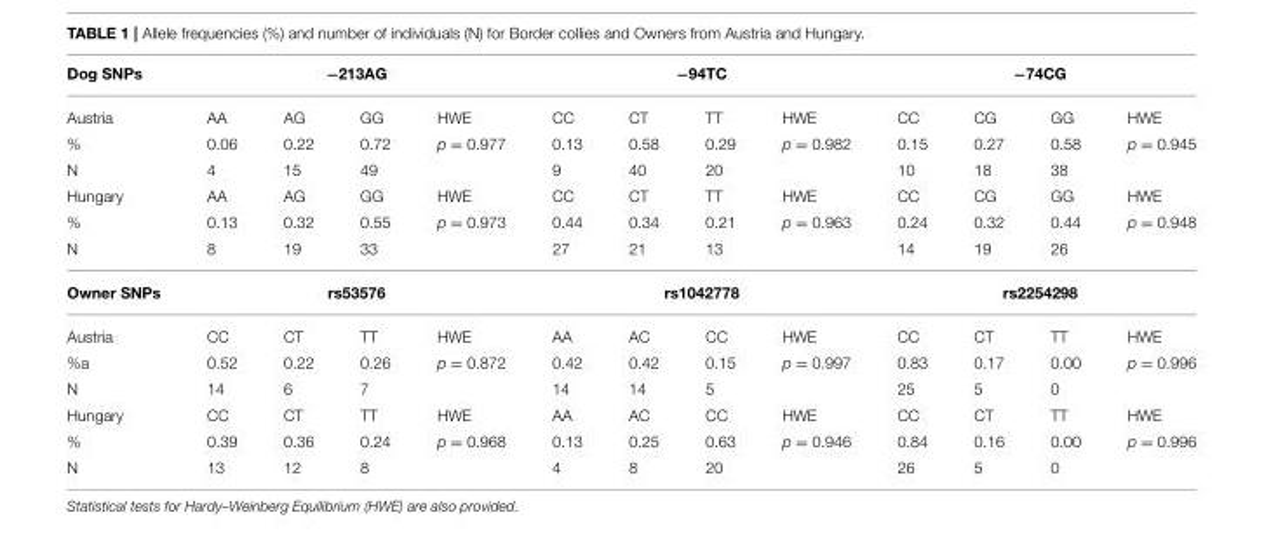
<table><thead><tr><td rowspan="2">Dog SNPs Austria</td><td colspan="4">−213AG</td><td colspan="4">−94TC</td><td colspan="4">−74CG</td></tr><tr><td>AA</td><td>AG</td><td>GG</td><td>HWE</td><td>CC</td><td>CT</td><td>TT</td><td>HWE</td><td>CC</td><td>CG</td><td>GG</td><td>HWE</td></tr></thead><tbody><tr><td>%</td><td>0.06</td><td>0.22</td><td>0.72</td><td>p = 0.977</td><td>0.13</td><td>0.58</td><td>0.29</td><td>p = 0.982</td><td>0.15</td><td>0.27</td><td>0.58</td><td>p = 0.945</td></tr><tr><td>N</td><td>4</td><td>15</td><td>49</td><td></td><td>9</td><td>40</td><td>20</td><td></td><td>10</td><td>18</td><td>38</td><td></td></tr><tr><td>Hungary</td><td>AA</td><td>AG</td><td>GG</td><td>HWE</td><td>CC</td><td>CT</td><td>TT</td><td>HWE</td><td>CC</td><td>CG</td><td>GG</td><td>HWE</td></tr><tr><td>%</td><td>0.13</td><td>0.32</td><td>0.55</td><td>p = 0.973</td><td>0.44</td><td>0.34</td><td>0.21</td><td>p = 0.963</td><td>0.24</td><td>0.32</td><td>0.44</td><td>p = 0.948</td></tr><tr><td>N</td><td>8</td><td>19</td><td>33</td><td></td><td>27</td><td>21</td><td>13</td><td></td><td>14</td><td>19</td><td>26</td><td></td></tr><tr><td>Owner SNPs</td><td colspan="4">rs53576</td><td colspan="4">rs1042778</td><td colspan="4">rs2254298</td></tr><tr><td>Austria</td><td>CC</td><td>CT</td><td>TT</td><td>HWE</td><td>AA</td><td>AC</td><td>CC</td><td>HWE</td><td>CC</td><td>CT</td><td>TT</td><td>HWE</td></tr><tr><td>%a</td><td>0.52</td><td>0.22</td><td>0.26</td><td>p = 0.872</td><td>0.42</td><td>0.42</td><td>0.15</td><td>p = 0.997</td><td>0.83</td><td>0.17</td><td>0.00</td><td>p = 0.996</td></tr><tr><td>N</td><td>14</td><td>6</td><td>7</td><td></td><td>14</td><td>14</td><td>5</td><td></td><td>25</td><td>5</td><td>0</td><td></td></tr><tr><td>Hungary</td><td>CC</td><td>CT</td><td>TT</td><td>HWE</td><td>AA</td><td>AC</td><td>CC</td><td>HWE</td><td>CC</td><td>CT</td><td>TT</td><td>HWE</td></tr><tr><td>%</td><td>0.39</td><td>0.36</td><td>0.24</td><td>p = 0.968</td><td>0.13</td><td>0.25</td><td>0.63</td><td>p = 0.946</td><td>0.84</td><td>0.16</td><td>0.00</td><td>p = 0.996</td></tr><tr><td>N</td><td>13</td><td>12</td><td>8</td><td></td><td>4</td><td>8</td><td>20</td><td></td><td>26</td><td>5</td><td>0</td><td></td></tr></tbody></table>